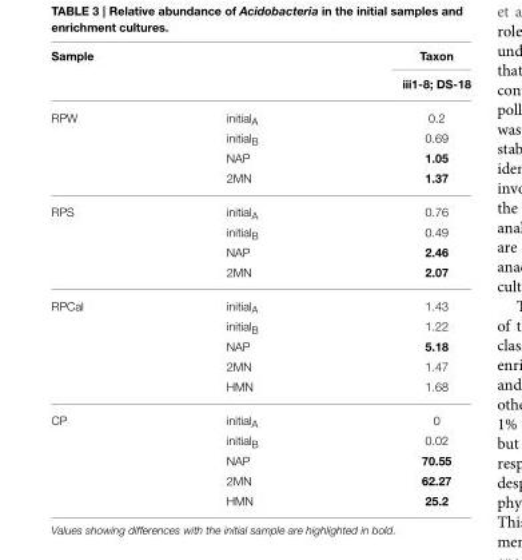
<table><thead><tr><td colspan="2">Sample</td><td rowspan="2">Taxon iii1-8; DS-18</td></tr><tr><td></td><td></td></tr></thead><tbody><tr><td rowspan="4">RPW</td><td>initial<sub>A</sub></td><td>0.2</td></tr><tr><td>initial<sub>B</sub></td><td>0.69</td></tr><tr><td>NAP</td><td>1.05</td></tr><tr><td>2MN</td><td>1.37</td></tr><tr><td rowspan="4">RPS</td><td>initial<sub>A</sub></td><td>0.76</td></tr><tr><td>initial<sub>B</sub></td><td>0.49</td></tr><tr><td>NAP</td><td>2.46</td></tr><tr><td>2MN</td><td>2.07</td></tr><tr><td rowspan="5">RPCal</td><td>initial<sub>A</sub></td><td>1.43</td></tr><tr><td>initial<sub>B</sub></td><td>1.22</td></tr><tr><td>NAP</td><td>5.18</td></tr><tr><td>2MN</td><td>1.47</td></tr><tr><td>HMN</td><td>1.68</td></tr><tr><td rowspan="5">CP</td><td>initial<sub>A</sub></td><td>0</td></tr><tr><td>initial<sub>B</sub></td><td>0.02</td></tr><tr><td>NAP</td><td>70.55</td></tr><tr><td>2MN</td><td>62.27</td></tr><tr><td>HMN</td><td>25.2</td></tr></tbody></table>